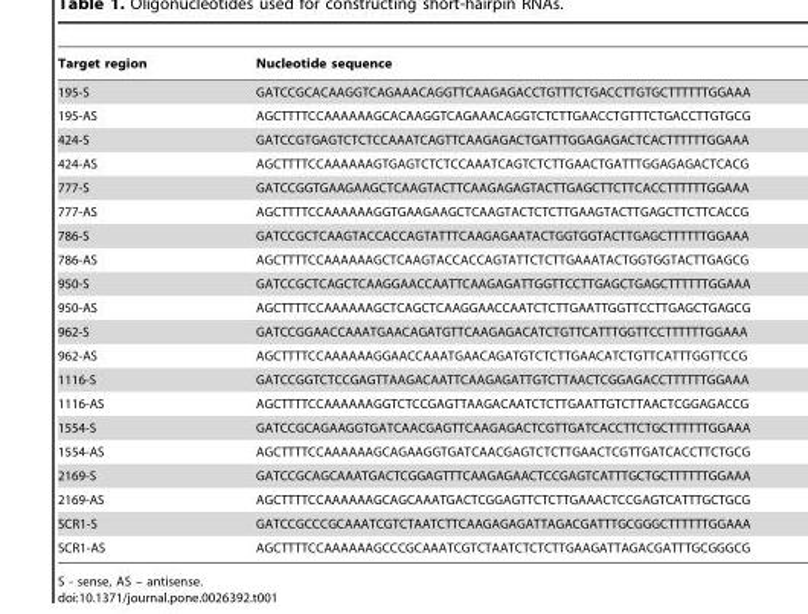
<table><thead><tr><td>Target region</td><td>Nucleotide sequence</td></tr></thead><tbody><tr><td>195-S</td><td>GATCCGCACAAGGTCAGAAACAGGTTCAAGAGACCTGTTTCTGACCTTGTGCTTTTTTGGAAA</td></tr><tr><td>195-AS</td><td>AGCTTTTCCAAAAAAGCACAAGGTCAGAAACAGGTCTCTTGAACCTGTTTCTGACCTTGTGCG</td></tr><tr><td>424-S</td><td>GATCCGTGAGTCTCTCCAAATCAGTTCAAGAGACTGATTTGGAGAGACTCACTTTTTTGGAAA</td></tr><tr><td>424-AS</td><td>AGCTTTTCCAAAAAAGTGAGTCTCTCCAAATCAGTCTCTTGAACTGATTTGGAGAGACTCACG</td></tr><tr><td>777-S</td><td>GATCCGGTGAAGAAGCTCAAGTACTTCAAGAGAGTACTTGAGCTTCTTCACCTTTTTTGGAAA</td></tr><tr><td>777-AS</td><td>AGCTTTTCCAAAAAAGGTGAAGAAGCTCAAGTACTCTCTTGAAGTACTTGAGCTTCTTCACCG</td></tr><tr><td>786-S</td><td>GATCCGCTCAAGTACCACCAGTATTTCAAGAGAATACTGGTGGTACTTGAGCTTTTTTGGAAA</td></tr><tr><td>786-AS</td><td>AGCTTTTCCAAAAAAGCTCAAGTACCACCAGTATTCTCTTGAAATACTGGTGGTACTTGAGCG</td></tr><tr><td>950-S</td><td>GATCCGCTCAGCTCAAGGAACCAATTCAAGAGATTGGTTCCTTGAGCTGAGCTTTTTTGGAAA</td></tr><tr><td>950-AS</td><td>AGCTTTTCCAAAAAAGCTCAGCTCAAGGAACCAATCTCTTGAATTGGTTCCTTGAGCTGAGCG</td></tr><tr><td>962-S</td><td>GATCCGGAACCAAATGAACAGATGTTCAAGAGACATCTGTTCATTTGGTTCCTTTTTTGGAAA</td></tr><tr><td>962-AS</td><td>AGCTTTTCCAAAAAAGGAACCAAATGAACAGATGTCTCTTGAACATCTGTTCATTTGGTTCCG</td></tr><tr><td>1116-S</td><td>GATCCGGTCTCCGAGTTAAGACAATTCAAGAGATTGTCTTAACTCGGAGACCTTTTTTGGAAA</td></tr><tr><td>1116-AS</td><td>AGCTTTTCCAAAAAAGGTCTCCGAGTTAAGACAATCTCTTGAATTGTCTTAACTCGGAGACCG</td></tr><tr><td>1554-S</td><td>GATCCGCAGAAGGTGATCAACGAGTTCAAGAGACTCGTTGATCACCTTCTGCTTTTTTGGAAA</td></tr><tr><td>1554-AS</td><td>AGCTTTTCCAAAAAAGCAGAAGGTGATCAACGAGTCTCTTGAACTCGTTGATCACCTTCTGCG</td></tr><tr><td>2169-S</td><td>GATCCGCAGCAAATGACTCGGAGTTTCAAGAGAACTCCGAGTCATTTGCTGCTTTTTTGGAAA</td></tr><tr><td>2169-AS</td><td>AGCTTTTCCAAAAAAGCAGCAAATGACTCGGAGTTCTCTTGAAACTCCGAGTCATTTGCTGCG</td></tr><tr><td>SCR1-S</td><td>GATCCGCCCGCAAATCGTCTAATCTTCAAGAGAGATTAGACGATTTGCGGGCTTTTTTGGAAA</td></tr><tr><td>SCR1-AS</td><td>AGCTTTTCCAAAAAAGCCCGCAAATCGTCTAATCTCTCTTGAAGATTAGACGATTTGCGGGCG</td></tr></tbody></table>